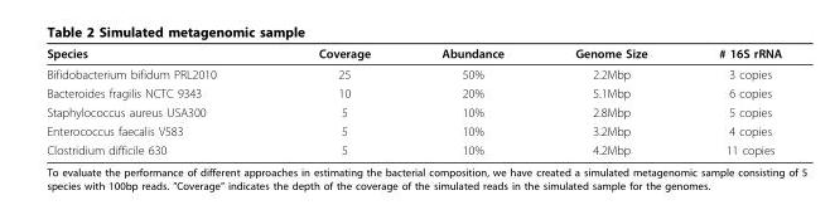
<table><thead><tr><td>Species</td><td>Coverage</td><td>Abundance</td><td>Genome Size</td><td># 16S rRNA</td></tr></thead><tbody><tr><td>Bifidobacterium bifidum PRL2010</td><td>25</td><td>50%</td><td>2.2Mbp</td><td>3 copies</td></tr><tr><td>Bacteroides fragilis NCTC 9343</td><td>10</td><td>20%</td><td>5.1Mbp</td><td>6 copies</td></tr><tr><td>Staphylococcus aureus USA300</td><td>5</td><td>10%</td><td>2.8Mbp</td><td>5 copies</td></tr><tr><td>Enterococcus faecalis V583</td><td>5</td><td>10%</td><td>3.2Mbp</td><td>4 copies</td></tr><tr><td>Clostridium difficile 630</td><td>5</td><td>10%</td><td>4.2Mbp</td><td>11 copies</td></tr></tbody></table>